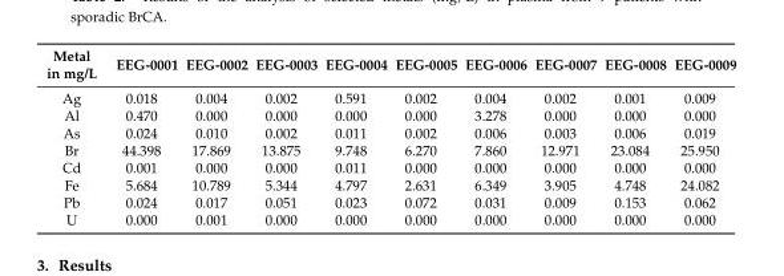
<table><thead><tr><td>Metal in mg/L</td><td>EEG-0001</td><td>EEG-0002</td><td>EEG-0003</td><td>EEG-0004</td><td>EEG-0005</td><td>EEG-0006</td><td>EEG-0007</td><td>EEG-0008</td><td>EEG-0009</td></tr></thead><tbody><tr><td>Ag</td><td>0.018</td><td>0.004</td><td>0.002</td><td>0.591</td><td>0.002</td><td>0.004</td><td>0.002</td><td>0.001</td><td>0.009</td></tr><tr><td>Al</td><td>0.470</td><td>0.000</td><td>0.000</td><td>0.000</td><td>0.000</td><td>3.278</td><td>0.000</td><td>0.000</td><td>0.000</td></tr><tr><td>As</td><td>0.024</td><td>0.010</td><td>0.002</td><td>0.011</td><td>0.002</td><td>0.006</td><td>0.003</td><td>0.006</td><td>0.019</td></tr><tr><td>Br</td><td>44.398</td><td>17.869</td><td>13.875</td><td>9.748</td><td>6.270</td><td>7.860</td><td>12.971</td><td>23.084</td><td>25.950</td></tr><tr><td>Cd</td><td>0.001</td><td>0.000</td><td>0.000</td><td>0.011</td><td>0.000</td><td>0.000</td><td>0.000</td><td>0.000</td><td>0.000</td></tr><tr><td>Fe</td><td>5.684</td><td>10.789</td><td>5.344</td><td>4.797</td><td>2.631</td><td>6.349</td><td>3.905</td><td>4.748</td><td>24.082</td></tr><tr><td>Pb</td><td>0.024</td><td>0.017</td><td>0.051</td><td>0.023</td><td>0.072</td><td>0.031</td><td>0.009</td><td>0.153</td><td>0.062</td></tr><tr><td>U</td><td>0.000</td><td>0.001</td><td>0.000</td><td>0.000</td><td>0.000</td><td>0.000</td><td>0.000</td><td>0.000</td><td>0.000</td></tr></tbody></table>